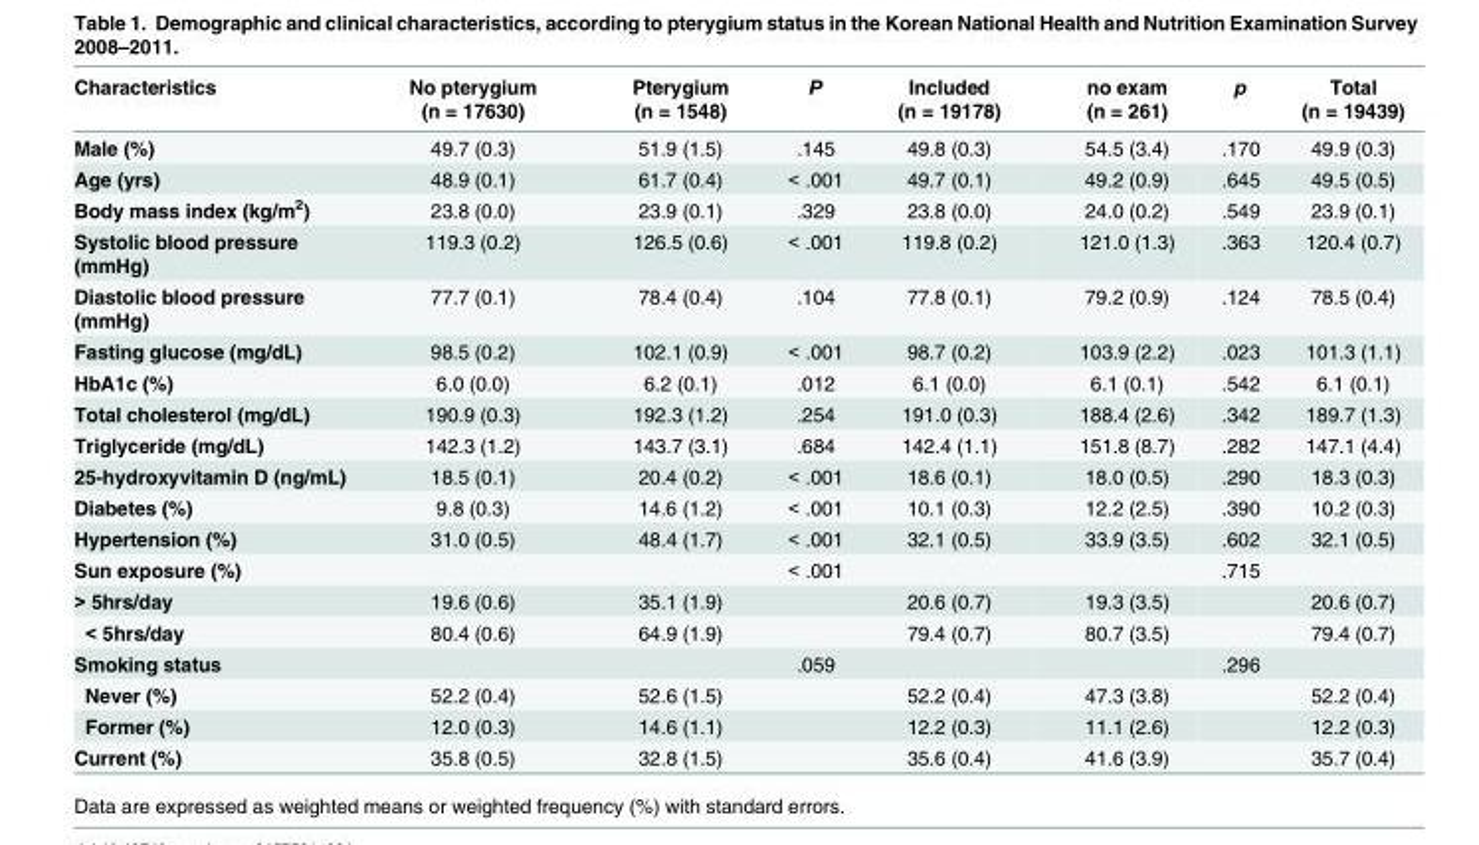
<table><thead><tr><td>Characteristics</td><td>No pterygium (n = 17630)</td><td>Pterygium (n = 1548)</td><td>P</td><td>Included (n = 19178)</td><td>no exam (n = 261)</td><td>p</td><td>Total (n = 19439)</td></tr></thead><tbody><tr><td>Male (%)</td><td>49.7 (0.3)</td><td>51.9 (1.5)</td><td>.145</td><td>49.8 (0.3)</td><td>54.5 (3.4)</td><td>.170</td><td>49.9 (0.3)</td></tr><tr><td>Age (yrs)</td><td>48.9 (0.1)</td><td>61.7 (0.4)</td><td>&lt; .001</td><td>49.7 (0.1)</td><td>49.2 (0.9)</td><td>.645</td><td>49.5 (0.5)</td></tr><tr><td>Body mass index (kg/m2)</td><td>23.8 (0.0)</td><td>23.9 (0.1)</td><td>.329</td><td>23.8 (0.0)</td><td>24.0 (0.2)</td><td>.549</td><td>23.9 (0.1)</td></tr><tr><td>Systolic blood pressure (mmHg)</td><td>119.3 (0.2)</td><td>126.5 (0.6)</td><td>&lt; .001</td><td>119.8 (0.2)</td><td>121.0 (1.3)</td><td>.363</td><td>120.4 (0.7)</td></tr><tr><td>Diastolic blood pressure (mmHg)</td><td>77.7 (0.1)</td><td>78.4 (0.4)</td><td>.104</td><td>77.8 (0.1)</td><td>79.2 (0.9)</td><td>.124</td><td>78.5 (0.4)</td></tr><tr><td>Fasting glucose (mg/dL)</td><td>98.5 (0.2)</td><td>102.1 (0.9)</td><td>&lt; .001</td><td>98.7 (0.2)</td><td>103.9 (2.2)</td><td>.023</td><td>101.3 (1.1)</td></tr><tr><td>HbA1c (%)</td><td>6.0 (0.0)</td><td>6.2 (0.1)</td><td>.012</td><td>6.1 (0.0)</td><td>6.1 (0.1)</td><td>.542</td><td>6.1 (0.1)</td></tr><tr><td>Total cholesterol (mg/dL)</td><td>190.9 (0.3)</td><td>192.3 (1.2)</td><td>.254</td><td>191.0 (0.3)</td><td>188.4 (2.6)</td><td>.342</td><td>189.7 (1.3)</td></tr><tr><td>Triglyceride (mg/dL)</td><td>142.3 (1.2)</td><td>143.7 (3.1)</td><td>.684</td><td>142.4 (1.1)</td><td>151.8 (8.7)</td><td>.282</td><td>147.1 (4.4)</td></tr><tr><td>25-hydroxyvitamin D (ng/mL)</td><td>18.5 (0.1)</td><td>20.4 (0.2)</td><td>&lt; .001</td><td>18.6 (0.1)</td><td>18.0 (0.5)</td><td>.290</td><td>18.3 (0.3)</td></tr><tr><td>Diabetes (%)</td><td>9.8 (0.3)</td><td>14.6 (1.2)</td><td>&lt; .001</td><td>10.1 (0.3)</td><td>12.2 (2.5)</td><td>.390</td><td>10.2 (0.3)</td></tr><tr><td>Hypertension (%)</td><td>31.0 (0.5)</td><td>48.4 (1.7)</td><td>&lt; .001</td><td>32.1 (0.5)</td><td>33.9 (3.5)</td><td>.602</td><td>32.1 (0.5)</td></tr><tr><td>Sun exposure (%)</td><td></td><td></td><td>&lt; .001</td><td></td><td></td><td>.715</td><td></td></tr><tr><td>&gt; 5hrs/day</td><td>19.6 (0.6)</td><td>35.1 (1.9)</td><td></td><td>20.6 (0.7)</td><td>19.3 (3.5)</td><td></td><td>20.6 (0.7)</td></tr><tr><td>&lt; 5hrs/day</td><td>80.4 (0.6)</td><td>64.9 (1.9)</td><td></td><td>79.4 (0.7)</td><td>80.7 (3.5)</td><td></td><td>79.4 (0.7)</td></tr><tr><td>Smoking status</td><td></td><td></td><td>.059</td><td></td><td></td><td>.296</td><td></td></tr><tr><td>Never (%)</td><td>52.2 (0.4)</td><td>52.6 (1.5)</td><td></td><td>52.2 (0.4)</td><td>47.3 (3.8)</td><td></td><td>52.2 (0.4)</td></tr><tr><td>Former (%)</td><td>12.0 (0.3)</td><td>14.6 (1.1)</td><td></td><td>12.2 (0.3)</td><td>11.1 (2.6)</td><td></td><td>12.2 (0.3)</td></tr><tr><td>Current (%)</td><td>35.8 (0.5)</td><td>32.8 (1.5)</td><td></td><td>35.6 (0.4)</td><td>41.6 (3.9)</td><td></td><td>35.7 (0.4)</td></tr></tbody></table>